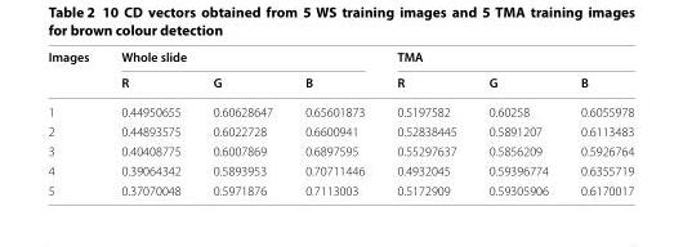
<table><thead><tr><td rowspan="2">Images</td><td colspan="3">Whole slide</td><td colspan="3">TMA</td></tr><tr><td>R</td><td>G</td><td>B</td><td>R</td><td>G</td><td>B</td></tr></thead><tbody><tr><td>1</td><td>0.44950655</td><td>0.60628647</td><td>0.65601873</td><td>0.5197582</td><td>0.60258</td><td>0.6055978</td></tr><tr><td>2</td><td>0.44893575</td><td>0.6022728</td><td>0.6600941</td><td>0.52838445</td><td>0.5891207</td><td>0.6113483</td></tr><tr><td>3</td><td>0.40408775</td><td>0.6007869</td><td>0.6897595</td><td>0.55297637</td><td>0.5856209</td><td>0.5926764</td></tr><tr><td>4</td><td>0.39064342</td><td>0.5893953</td><td>0.70711446</td><td>0.4932045</td><td>0.59396774</td><td>0.6355719</td></tr><tr><td>5</td><td>0.37070048</td><td>0.5971876</td><td>0.7113003</td><td>0.5172909</td><td>0.59305906</td><td>0.6170017</td></tr></tbody></table>